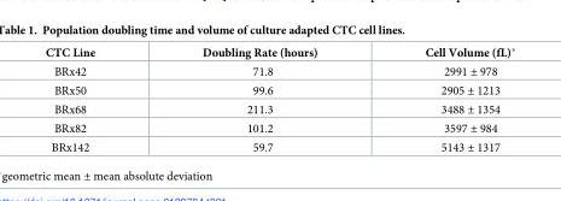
<table><thead><tr><td>CTC Line</td><td>Doubling Rate (hours)</td><td>Cell Volume (fL)*</td></tr></thead><tbody><tr><td>BRx42</td><td>71.8</td><td>2991 ± 978</td></tr><tr><td>BRx50</td><td>99.6</td><td>2905 ± 1213</td></tr><tr><td>BRx68</td><td>211.3</td><td>3488 ± 1354</td></tr><tr><td>BRx82</td><td>101.2</td><td>3597 ± 984</td></tr><tr><td>BRx142</td><td>59.7</td><td>5143 ± 1317</td></tr></tbody></table>